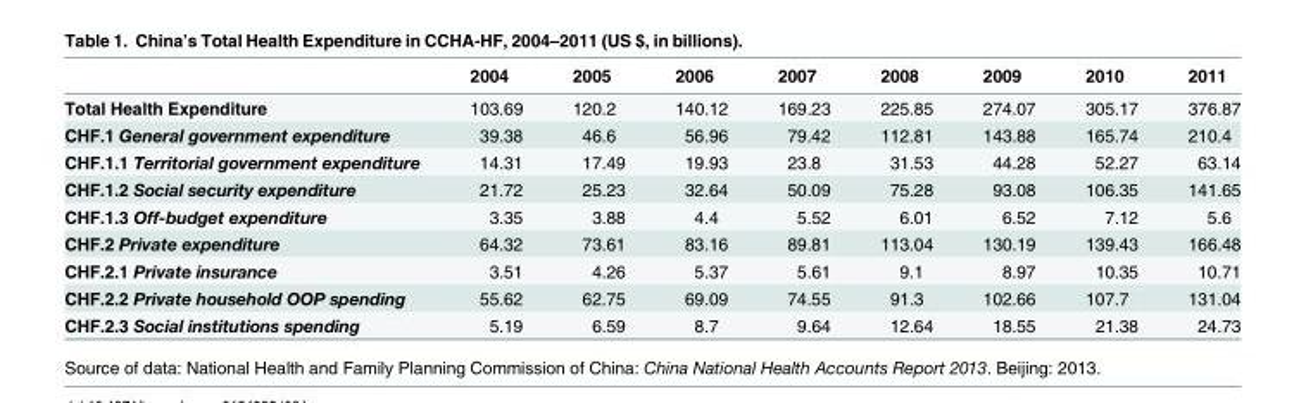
<table><thead><tr><td></td><td>2004</td><td>2005</td><td>2006</td><td>2007</td><td>2008</td><td>2009</td><td>2010</td><td>2011</td></tr></thead><tbody><tr><td>Total Health Expenditure</td><td>103.69</td><td>120.2</td><td>140.12</td><td>169.23</td><td>225.85</td><td>274.07</td><td>305.17</td><td>376.87</td></tr><tr><td>CHF.1 General government expenditure</td><td>39.38</td><td>46.6</td><td>56.96</td><td>79.42</td><td>112.81</td><td>143.88</td><td>165.74</td><td>210.4</td></tr><tr><td>CHF.1.1 Territorial government expenditure</td><td>14.31</td><td>17.49</td><td>19.93</td><td>23.8</td><td>31.53</td><td>44.28</td><td>52.27</td><td>63.14</td></tr><tr><td>CHF.1.2 Social security expenditure</td><td>21.72</td><td>25.23</td><td>32.64</td><td>50.09</td><td>75.28</td><td>93.08</td><td>106.35</td><td>141.65</td></tr><tr><td>CHF.1.3 Off-budget expenditure</td><td>3.35</td><td>3.88</td><td>4.4</td><td>5.52</td><td>6.01</td><td>6.52</td><td>7.12</td><td>5.6</td></tr><tr><td>CHF.2 Private expenditure</td><td>64.32</td><td>73.61</td><td>83.16</td><td>89.81</td><td>113.04</td><td>130.19</td><td>139.43</td><td>166.48</td></tr><tr><td>CHF.2.1 Private insurance</td><td>3.51</td><td>4.26</td><td>5.37</td><td>5.61</td><td>9.1</td><td>8.97</td><td>10.35</td><td>10.71</td></tr><tr><td>CHF.2.2 Private household OOP spending</td><td>55.62</td><td>62.75</td><td>69.09</td><td>74.55</td><td>91.3</td><td>102.66</td><td>107.7</td><td>131.04</td></tr><tr><td>CHF.2.3 Social institutions spending</td><td>5.19</td><td>6.59</td><td>8.7</td><td>9.64</td><td>12.64</td><td>18.55</td><td>21.38</td><td>24.73</td></tr></tbody></table>